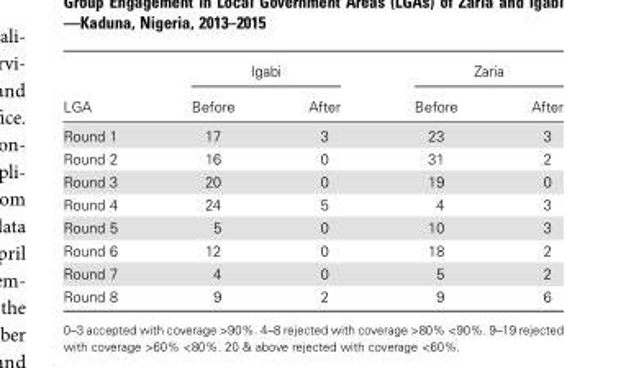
<table><thead><tr><td rowspan="2">LGA</td><td colspan="2">Igabi</td><td colspan="2">Zaria</td></tr><tr><td>Before</td><td>After</td><td>Before</td><td>After</td></tr></thead><tbody><tr><td>Round 1</td><td>17</td><td>3</td><td>23</td><td>3</td></tr><tr><td>Round 2</td><td>16</td><td>0</td><td>31</td><td>2</td></tr><tr><td>Round 3</td><td>20</td><td>0</td><td>19</td><td>0</td></tr><tr><td>Round 4</td><td>24</td><td>5</td><td>4</td><td>3</td></tr><tr><td>Round 5</td><td>5</td><td>0</td><td>10</td><td>3</td></tr><tr><td>Round 6</td><td>12</td><td>0</td><td>18</td><td>2</td></tr><tr><td>Round 7</td><td>4</td><td>0</td><td>5</td><td>2</td></tr><tr><td>Round 8</td><td>9</td><td>2</td><td>9</td><td>6</td></tr></tbody></table>